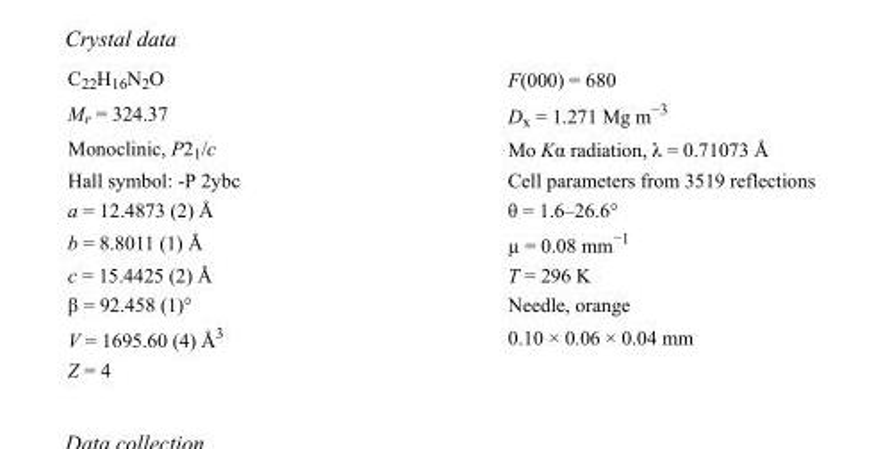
<table><tbody><tr><td>C<sub>22</sub>H<sub>16</sub>N<sub>2</sub>O</td><td>F(000) = 680</td></tr><tr><td>M<sub>r</sub> = 324.37</td><td>D<sub>x</sub> = 1.271 Mg m<sup>−3</sup></td></tr><tr><td>Monoclinic, P2<sub>1</sub>/c</td><td>Mo Kα radiation, λ = 0.71073 Å</td></tr><tr><td>Hall symbol: -P 2ybc</td><td>Cell parameters from 3519 reflections</td></tr><tr><td>a = 12.4873 (2) Å</td><td>θ = 1.6–26.6°</td></tr><tr><td>b = 8.8011 (1) Å</td><td>µ = 0.08 mm<sup>−1</sup></td></tr><tr><td>c = 15.4425 (2) Å</td><td>T = 296 K</td></tr><tr><td>β = 92.458 (1)°</td><td>Needle, orange</td></tr><tr><td>V = 1695.60 (4) Å<sup>3</sup></td><td>0.10 × 0.06 × 0.04 mm</td></tr><tr><td>Z = 4</td><td></td></tr></tbody></table>